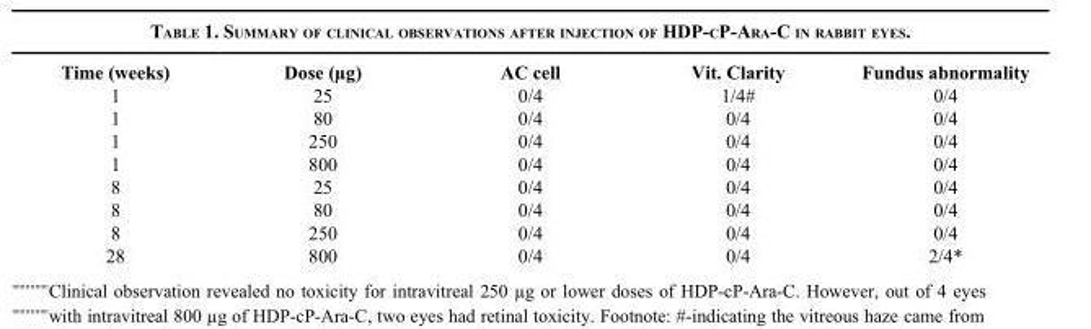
<table><thead><tr><td>Time (weeks)</td><td>Dose (µg)</td><td>AC cell</td><td>Vit. Clarity</td><td>Fundus abnormality</td></tr></thead><tbody><tr><td>1</td><td>25</td><td>0/4</td><td>1/4#</td><td>0/4</td></tr><tr><td>1</td><td>80</td><td>0/4</td><td>0/4</td><td>0/4</td></tr><tr><td>1</td><td>250</td><td>0/4</td><td>0/4</td><td>0/4</td></tr><tr><td>1</td><td>800</td><td>0/4</td><td>0/4</td><td>0/4</td></tr><tr><td>8</td><td>25</td><td>0/4</td><td>0/4</td><td>0/4</td></tr><tr><td>8</td><td>80</td><td>0/4</td><td>0/4</td><td>0/4</td></tr><tr><td>8</td><td>250</td><td>0/4</td><td>0/4</td><td>0/4</td></tr><tr><td>28</td><td>800</td><td>0/4</td><td>0/4</td><td>2/4*</td></tr></tbody></table>